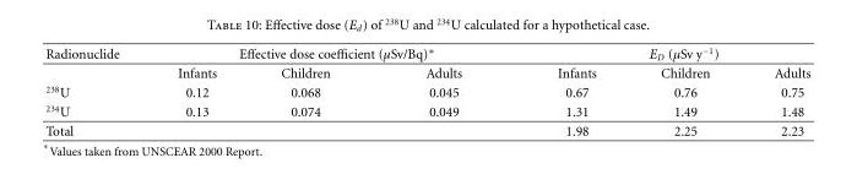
<table><thead><tr><td rowspan="2">Radionuclide</td><td colspan="3">Effective dose coefficient (μSv/Bq)∗</td><td colspan="3">E<sub>D</sub> (μSv y<sup>−1</sup>)</td></tr><tr><td>Infants</td><td>Children</td><td>Adults</td><td>Infants</td><td>Children</td><td>Adults</td></tr></thead><tbody><tr><td><sup>238</sup>U</td><td>0.12</td><td>0.068</td><td>0.045</td><td>0.67</td><td>0.76</td><td>0.75</td></tr><tr><td><sup>234</sup>U</td><td>0.13</td><td>0.074</td><td>0.049</td><td>1.31</td><td>1.49</td><td>1.48</td></tr><tr><td>Total</td><td></td><td></td><td></td><td>1.98</td><td>2.25</td><td>2.23</td></tr></tbody></table>